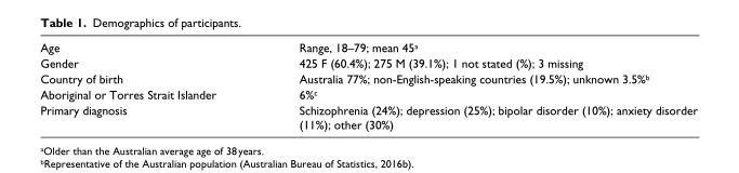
<table><tbody><tr><td>Age</td><td>Range, 18–79; mean 45<sup>a</sup></td></tr><tr><td>Gender</td><td>425 F (60.4%); 275 M (39.1%); 1 not stated (%); 3 missing</td></tr><tr><td>Country of birth</td><td>Australia 77%; non-English-speaking countries (19.5%); unknown 3.5%<sup>b</sup></td></tr><tr><td>Aboriginal or Torres Strait Islander</td><td>6%<sup>c</sup></td></tr><tr><td>Primary diagnosis</td><td>Schizophrenia (24%); depression (25%); bipolar disorder (10%); anxiety disorder (11%); other (30%)</td></tr></tbody></table>